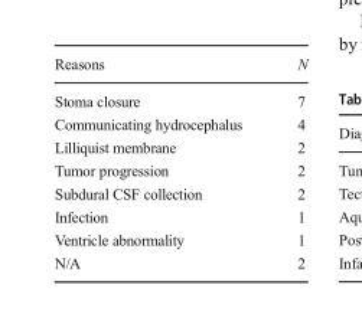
<table><thead><tr><td>Reasons</td><td>N</td></tr></thead><tbody><tr><td>Stoma closure</td><td>7</td></tr><tr><td>Communicating hydrocephalus</td><td>4</td></tr><tr><td>Lilliquist membrane</td><td>2</td></tr><tr><td>Tumor progression</td><td>2</td></tr><tr><td>Subdural CSF collection</td><td>2</td></tr><tr><td>Infection</td><td>1</td></tr><tr><td>Ventricle abnormality</td><td>1</td></tr><tr><td>N/A</td><td>2</td></tr></tbody></table>